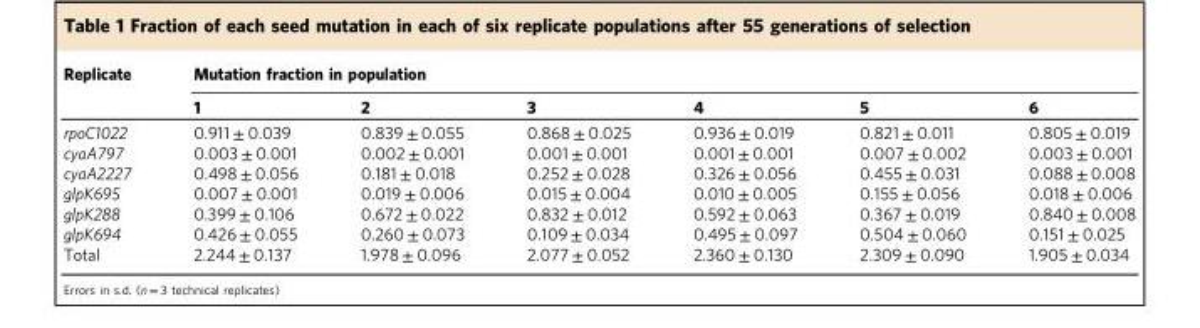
<table><thead><tr><td rowspan="2">Replicate</td><td colspan="6">Mutation fraction in population</td></tr><tr><td>1</td><td>2</td><td>3</td><td>4</td><td>5</td><td>6</td></tr></thead><tbody><tr><td>rpoC1022</td><td>0.911 ± 0.039</td><td>0.839 ± 0.055</td><td>0.868 ± 0.025</td><td>0.936 ± 0.019</td><td>0.821 ± 0.011</td><td>0.805 ± 0.019</td></tr><tr><td>cyaA797</td><td>0.003 ± 0.001</td><td>0.002 ± 0.001</td><td>0.001 ± 0.001</td><td>0.001 ± 0.001</td><td>0.007 ± 0.002</td><td>0.003 ± 0.001</td></tr><tr><td>cyaA2227</td><td>0.498 ± 0.056</td><td>0.181 ± 0.018</td><td>0.252 ± 0.028</td><td>0.326 ± 0.056</td><td>0.455 ± 0.031</td><td>0.088 ± 0.008</td></tr><tr><td>glpK695</td><td>0.007 ± 0.001</td><td>0.019 ± 0.006</td><td>0.015 ± 0.004</td><td>0.010 ± 0.005</td><td>0.155 ± 0.056</td><td>0.018 ± 0.006</td></tr><tr><td>glpK288</td><td>0.399 ± 0.106</td><td>0.672 ± 0.022</td><td>0.832 ± 0.012</td><td>0.592 ± 0.063</td><td>0.367 ± 0.019</td><td>0.840 ± 0.008</td></tr><tr><td>glpK694</td><td>0.426 ± 0.055</td><td>0.260 ± 0.073</td><td>0.109 ± 0.034</td><td>0.495 ± 0.097</td><td>0.504 ± 0.060</td><td>0.151 ± 0.025</td></tr><tr><td>Total</td><td>2.244 ± 0.137</td><td>1.978 ± 0.096</td><td>2.077 ± 0.052</td><td>2.360 ± 0.130</td><td>2.309 ± 0.090</td><td>1.905 ± 0.034</td></tr></tbody></table>